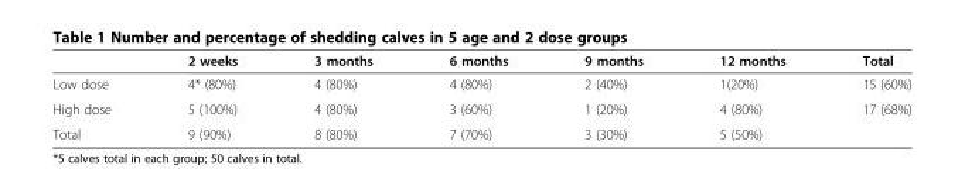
<table><thead><tr><td></td><td>2 weeks</td><td>3 months</td><td>6 months</td><td>9 months</td><td>12 months</td><td>Total</td></tr></thead><tbody><tr><td>Low dose</td><td>4* (80%)</td><td>4 (80%)</td><td>4 (80%)</td><td>2 (40%)</td><td>1(20%)</td><td>15 (60%)</td></tr><tr><td>High dose</td><td>5 (100%)</td><td>4 (80%)</td><td>3 (60%)</td><td>1 (20%)</td><td>4 (80%)</td><td>17 (68%)</td></tr><tr><td>Total</td><td>9 (90%)</td><td>8 (80%)</td><td>7 (70%)</td><td>3 (30%)</td><td>5 (50%)</td><td></td></tr></tbody></table>